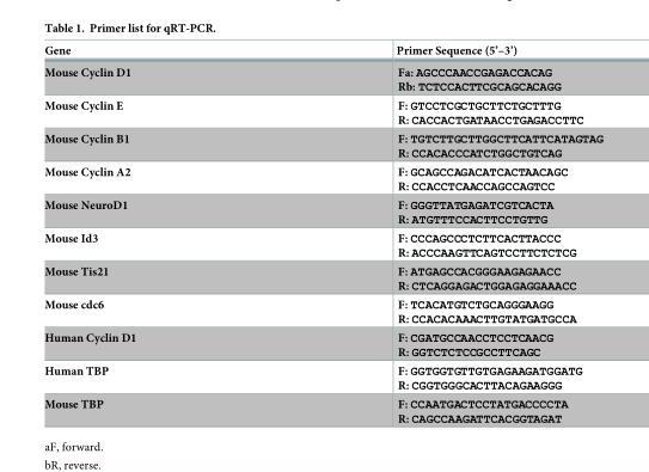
<table><thead><tr><td>Gene</td><td>Primer Sequence (5’–3’)</td></tr></thead><tbody><tr><td>Mouse Cyclin D1</td><td>F<sup>a</sup>: AGCCCAACCGAGACCACAG R<sup>b</sup>: TCTCCACTTCGCAGCACAGG</td></tr><tr><td>Mouse Cyclin E</td><td>F: GTCCTCGCTGCTTCTGCTTTG R: CACCACTGATAACCTGAGACCTTC</td></tr><tr><td>Mouse Cyclin B1</td><td>F: TGTCTTGCTTGGCTTCATTCATAGTAG R: CCACACCCATCTGGCTGTCAG</td></tr><tr><td>Mouse Cyclin A2</td><td>F: GCAGCCAGACATCACTAACAGC R: CCACCTCAACCAGCCAGTCC</td></tr><tr><td>Mouse NeuroD1</td><td>F: GGGTTATGAGATCGTCACTA R: ATGTTTCCACTTCCTGTTG</td></tr><tr><td>Mouse Id3</td><td>F: CCCAGCCCTCTTCACTTACCC R: ACCCAAGTTCAGTCCTTCTCTCG</td></tr><tr><td>Mouse Tis21</td><td>F: ATGAGCCACGGGAAGAGAACC R: CTCAGGAGACTGGAGAGGAAACC</td></tr><tr><td>Mouse cdc6</td><td>F: TCACATGTCTGCAGGGAAGG R: CCACACAAACTTGTATGATGCCA</td></tr><tr><td>Human Cyclin D1</td><td>F: CGATGCCAACCTCCTCAACG R: GGTCTCTCCGCCTTCAGC</td></tr><tr><td>Human TBP</td><td>F: GGTGGTGTTGTGAGAAGATGGATG R: CGGTGGGCACTTACAGAAGGG</td></tr><tr><td>Mouse TBP</td><td>F: CCAATGACTCCTATGACCCCTA R: CAGCCAAGATTCACGGTAGAT</td></tr></tbody></table>